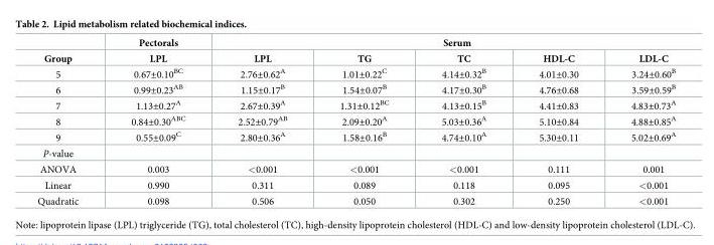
<table><thead><tr><td rowspan="2">Group</td><td rowspan="2">Pectorals LPL</td><td colspan="5">Serum</td></tr><tr><td>LPL</td><td>TG</td><td>TC</td><td>HDL-C</td><td>LDL-C</td></tr></thead><tbody><tr><td>5</td><td>0.67±0.10<sup>BC</sup></td><td>2.76±0.62<sup>A</sup></td><td>1.01±0.22<sup>C</sup></td><td>4.14±0.32<sup>B</sup></td><td>4.01±0.30</td><td>3.24±0.60<sup>B</sup></td></tr><tr><td>6</td><td>0.99±0.23<sup>AB</sup></td><td>1.15±0.17<sup>B</sup></td><td>1.54±0.07<sup>B</sup></td><td>4.17±0.30<sup>B</sup></td><td>4.76±0.68</td><td>3.59±0.59<sup>B</sup></td></tr><tr><td>7</td><td>1.13±0.27<sup>A</sup></td><td>2.67±0.39<sup>A</sup></td><td>1.31±0.12<sup>BC</sup></td><td>4.13±0.15<sup>B</sup></td><td>4.41±0.83</td><td>4.83±0.73<sup>A</sup></td></tr><tr><td>8</td><td>0.84±0.30<sup>ABC</sup></td><td>2.52±0.79<sup>AB</sup></td><td>2.09±0.20<sup>A</sup></td><td>5.03±0.36<sup>A</sup></td><td>5.10±0.84</td><td>4.88±0.85<sup>A</sup></td></tr><tr><td>9</td><td>0.55±0.09<sup>C</sup></td><td>2.80±0.36<sup>A</sup></td><td>1.58±0.16<sup>B</sup></td><td>4.74±0.10<sup>A</sup></td><td>5.30±0.11</td><td>5.02±0.69<sup>A</sup></td></tr><tr><td colspan="7">P-value</td></tr><tr><td>ANOVA</td><td>0.003</td><td>&lt;0.001</td><td>&lt;0.001</td><td>&lt;0.001</td><td>0.111</td><td>0.001</td></tr><tr><td>Linear</td><td>0.990</td><td>0.311</td><td>0.089</td><td>0.118</td><td>0.095</td><td>&lt;0.001</td></tr><tr><td>Quadratic</td><td>0.098</td><td>0.506</td><td>0.050</td><td>0.302</td><td>0.250</td><td>&lt;0.001</td></tr></tbody></table>